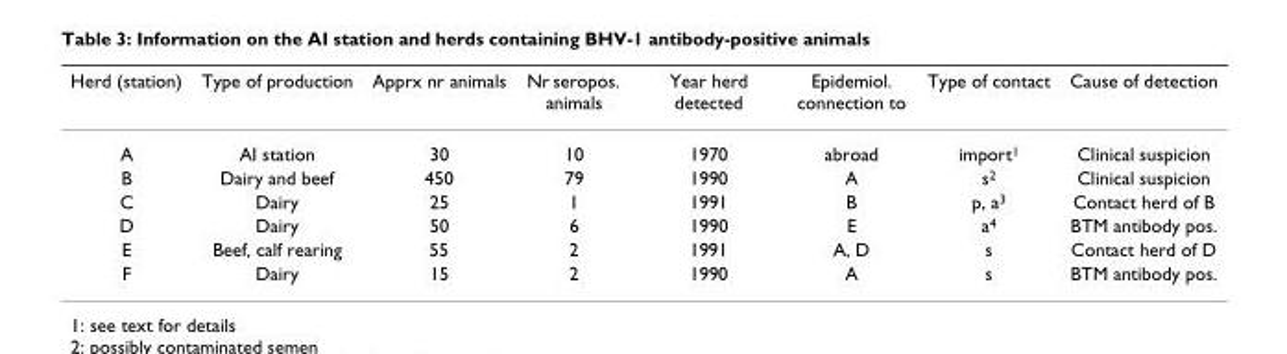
<table><thead><tr><td>Herd (station)</td><td>Type of production</td><td>Apprx nr animals</td><td>Nr seropos. animals</td><td>Year herd detected</td><td>Epidemiol. connection to</td><td>Type of contact</td><td>Cause of detection</td></tr></thead><tbody><tr><td>A</td><td>AI station</td><td>30</td><td>10</td><td>1970</td><td>abroad</td><td>import<sup>1</sup></td><td>Clinical suspicion</td></tr><tr><td>B</td><td>Dairy and beef</td><td>450</td><td>79</td><td>1990</td><td>A</td><td>s<sup>2</sup></td><td>Clinical suspicion</td></tr><tr><td>C</td><td>Dairy</td><td>25</td><td>1</td><td>1991</td><td>B</td><td>p, a<sup>3</sup></td><td>Contact herd of B</td></tr><tr><td>D</td><td>Dairy</td><td>50</td><td>6</td><td>1990</td><td>E</td><td>a<sup>4</sup></td><td>BTM antibody pos.</td></tr><tr><td>E</td><td>Beef, calf rearing</td><td>55</td><td>2</td><td>1991</td><td>A, D</td><td>s</td><td>Contact herd of D</td></tr><tr><td>F</td><td>Dairy</td><td>15</td><td>2</td><td>1990</td><td>A</td><td>s</td><td>BTM antibody pos.</td></tr></tbody></table>